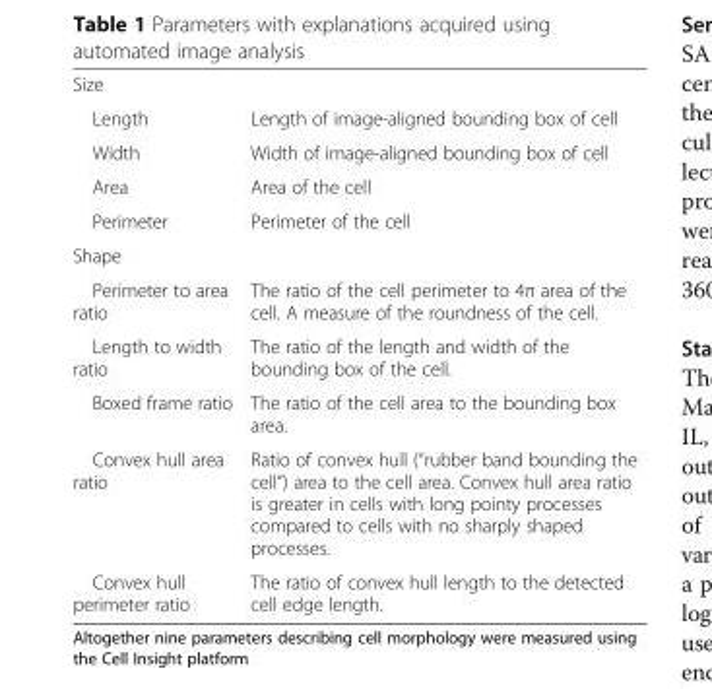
<table><tbody><tr><td colspan="2">Size</td></tr><tr><td>Length</td><td>Length of image-aligned bounding box of cell</td></tr><tr><td>Width</td><td>Width of image-aligned bounding box of cell</td></tr><tr><td>Area</td><td>Area of the cell</td></tr><tr><td>Perimeter</td><td>Perimeter of the cell</td></tr><tr><td colspan="2">Shape</td></tr><tr><td>Perimeter to area ratio</td><td>The ratio of the cell perimeter to 4π area of the cell. A measure of the roundness of the cell.</td></tr><tr><td>Length to width ratio</td><td>The ratio of the length and width of the bounding box of the cell.</td></tr><tr><td>Boxed frame ratio</td><td>The ratio of the cell area to the bounding box area.</td></tr><tr><td>Convex hull area ratio</td><td>Ratio of convex hull (“rubber band bounding the cell”) area to the cell area. Convex hull area ratio is greater in cells with long pointy processes compared to cells with no sharply shaped processes.</td></tr><tr><td>Convex hull perimeter ratio</td><td>The ratio of convex hull length to the detected cell edge length.</td></tr></tbody></table>